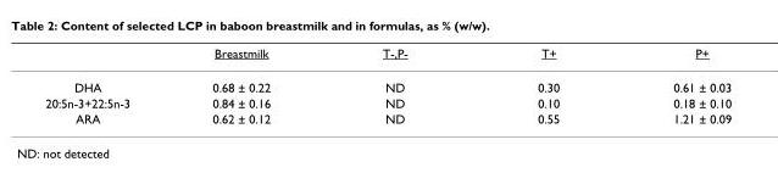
<table><thead><tr><td></td><td>Breastmilk</td><td>T-,P-</td><td>T+</td><td>P+</td></tr></thead><tbody><tr><td>DHA</td><td>0.68 ± 0.22</td><td>ND</td><td>0.30</td><td>0.61 ± 0.03</td></tr><tr><td>20:5n-3+22:5n-3</td><td>0.84 ± 0.16</td><td>ND</td><td>0.10</td><td>0.18 ± 0.10</td></tr><tr><td>ARA</td><td>0.62 ± 0.12</td><td>ND</td><td>0.55</td><td>1.21 ± 0.09</td></tr></tbody></table>